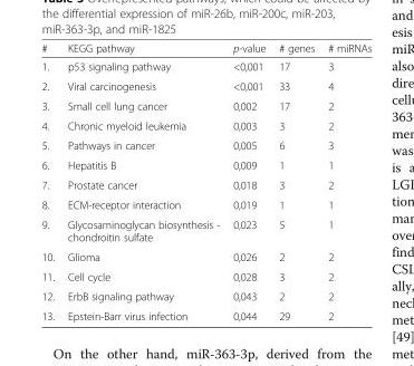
<table><thead><tr><td>#</td><td>KEGG pathway</td><td>p-value</td><td># genes</td><td># miRNAs</td></tr></thead><tbody><tr><td>1.</td><td>p53 signaling pathway</td><td>&lt;0,001</td><td>17</td><td>3</td></tr><tr><td>2.</td><td>Viral carcinogenesis</td><td>&lt;0,001</td><td>33</td><td>4</td></tr><tr><td>3.</td><td>Small cell lung cancer</td><td>0,002</td><td>17</td><td>2</td></tr><tr><td>4.</td><td>Chronic myeloid leukemia</td><td>0,003</td><td>3</td><td>2</td></tr><tr><td>5.</td><td>Pathways in cancer</td><td>0,005</td><td>6</td><td>3</td></tr><tr><td>6.</td><td>Hepatitis B</td><td>0,009</td><td>1</td><td>1</td></tr><tr><td>7.</td><td>Prostate cancer</td><td>0,018</td><td>3</td><td>2</td></tr><tr><td>8.</td><td>ECM-receptor interaction</td><td>0,019</td><td>1</td><td>1</td></tr><tr><td>9.</td><td>Glycosaminoglycan biosynthesis - chondroitin sulfate</td><td>0,023</td><td>5</td><td>1</td></tr><tr><td>10.</td><td>Glioma</td><td>0,026</td><td>2</td><td>2</td></tr><tr><td>11.</td><td>Cell cycle</td><td>0,028</td><td>3</td><td>2</td></tr><tr><td>12.</td><td>ErbB signaling pathway</td><td>0,043</td><td>2</td><td>2</td></tr><tr><td>13.</td><td>Epstein-Barr virus infection</td><td>0,044</td><td>29</td><td>2</td></tr></tbody></table>